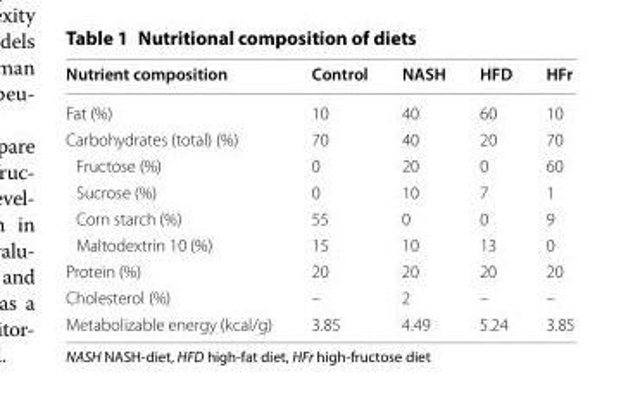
<table><thead><tr><td>Nutrient composition</td><td>Control</td><td>NASH</td><td>HFD</td><td>HFr</td></tr></thead><tbody><tr><td>Fat (%)</td><td>10</td><td>40</td><td>60</td><td>10</td></tr><tr><td>Carbohydrates (total) (%)</td><td>70</td><td>40</td><td>20</td><td>70</td></tr><tr><td>Fructose (%)</td><td>0</td><td>20</td><td>0</td><td>60</td></tr><tr><td>Sucrose (%)</td><td>0</td><td>10</td><td>7</td><td>1</td></tr><tr><td>Corn starch (%)</td><td>55</td><td>0</td><td>0</td><td>9</td></tr><tr><td>Maltodextrin 10 (%)</td><td>15</td><td>10</td><td>13</td><td>0</td></tr><tr><td>Protein (%)</td><td>20</td><td>20</td><td>20</td><td>20</td></tr><tr><td>Cholesterol (%)</td><td>–</td><td>2</td><td>–</td><td>–</td></tr><tr><td>Metabolizable energy (kcal/g)</td><td>3.85</td><td>4.49</td><td>5.24</td><td>3.85</td></tr></tbody></table>